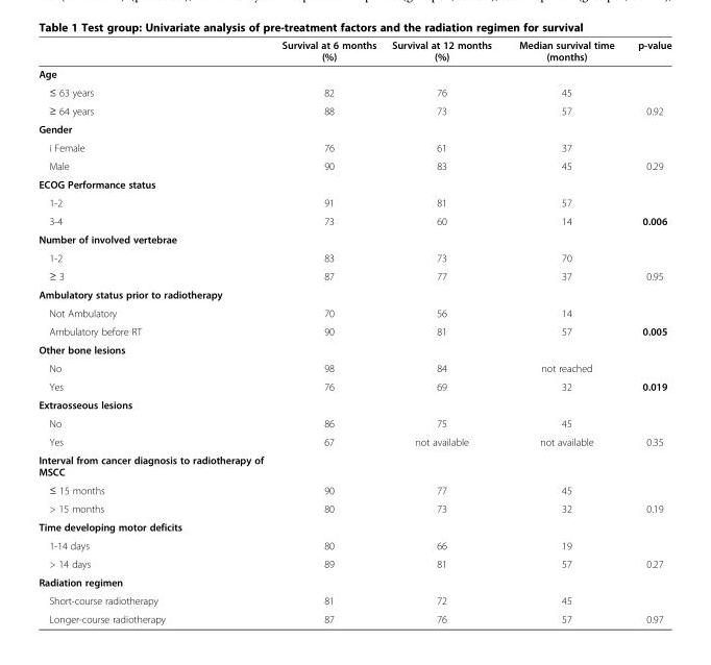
<table><thead><tr><td></td><td>Survival at 6 months (%)</td><td>Survival at 12 months (%)</td><td>Median survival time (months)</td><td>p-value</td></tr></thead><tbody><tr><td colspan="5">Age</td></tr><tr><td>≤ 63 years</td><td>82</td><td>76</td><td>45</td><td></td></tr><tr><td>≥ 64 years</td><td>88</td><td>73</td><td>57</td><td>0.92</td></tr><tr><td colspan="5">Gender</td></tr><tr><td>i Female</td><td>76</td><td>61</td><td>37</td><td></td></tr><tr><td>Male</td><td>90</td><td>83</td><td>45</td><td>0.29</td></tr><tr><td colspan="5">ECOG Performance status</td></tr><tr><td>1-2</td><td>91</td><td>81</td><td>57</td><td></td></tr><tr><td>3-4</td><td>73</td><td>60</td><td>14</td><td>0.006</td></tr><tr><td colspan="5">Number of involved vertebrae</td></tr><tr><td>1-2</td><td>83</td><td>73</td><td>70</td><td></td></tr><tr><td>≥ 3</td><td>87</td><td>77</td><td>37</td><td>0.95</td></tr><tr><td colspan="5">Ambulatory status prior to radiotherapy</td></tr><tr><td>Not Ambulatory</td><td>70</td><td>56</td><td>14</td><td></td></tr><tr><td>Ambulatory before RT</td><td>90</td><td>81</td><td>57</td><td>0.005</td></tr><tr><td colspan="5">Other bone lesions</td></tr><tr><td>No</td><td>98</td><td>84</td><td>not reached</td><td></td></tr><tr><td>Yes</td><td>76</td><td>69</td><td>32</td><td>0.019</td></tr><tr><td colspan="5">Extraosseous lesions</td></tr><tr><td>No</td><td>86</td><td>75</td><td>45</td><td></td></tr><tr><td>Yes</td><td>67</td><td>not available</td><td>not available</td><td>0.35</td></tr><tr><td colspan="5">Interval from cancer diagnosis to radiotherapy of MSCC</td></tr><tr><td>≤ 15 months</td><td>90</td><td>77</td><td>45</td><td></td></tr><tr><td>&gt; 15 months</td><td>80</td><td>73</td><td>32</td><td>0.19</td></tr><tr><td colspan="5">Time developing motor deficits</td></tr><tr><td>1-14 days</td><td>80</td><td>66</td><td>19</td><td></td></tr><tr><td>&gt; 14 days</td><td>89</td><td>81</td><td>57</td><td>0.27</td></tr><tr><td colspan="5">Radiation regimen</td></tr><tr><td>Short-course radiotherapy</td><td>81</td><td>72</td><td>45</td><td></td></tr><tr><td>Longer-course radiotherapy</td><td>87</td><td>76</td><td>57</td><td>0.97</td></tr></tbody></table>